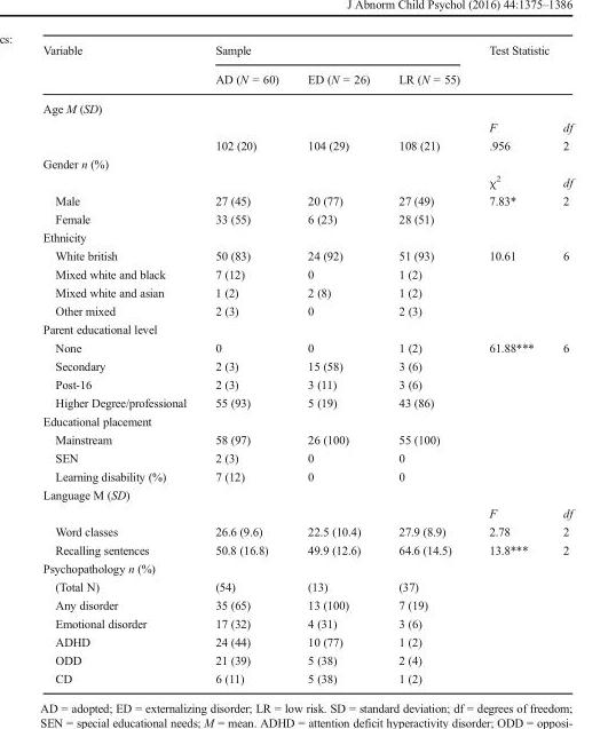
<table><thead><tr><td rowspan="2">Variable</td><td colspan="3">Sample</td><td rowspan="2" colspan="2">Test Statistic</td></tr><tr><td>AD (N = 60)</td><td>ED (N = 26)</td><td>LR (N = 55)</td></tr><tr><td colspan="6">Age M (SD)</td></tr><tr><td></td><td></td><td></td><td></td><td>F</td><td>df</td></tr></thead><tbody><tr><td></td><td>102 (20)</td><td>104 (29)</td><td>108 (21)</td><td>.956</td><td>2</td></tr><tr><td colspan="6">Gender n (%)</td></tr><tr><td></td><td></td><td></td><td></td><td>χ<sup>2</sup></td><td>df</td></tr><tr><td>Male</td><td>27 (45)</td><td>20 (77)</td><td>27 (49)</td><td>7.83*</td><td>2</td></tr><tr><td>Female</td><td>33 (55)</td><td>6 (23)</td><td>28 (51)</td><td></td><td></td></tr><tr><td colspan="6">Ethnicity</td></tr><tr><td>White british</td><td>50 (83)</td><td>24 (92)</td><td>51 (93)</td><td>10.61</td><td>6</td></tr><tr><td>Mixed white and black</td><td>7 (12)</td><td>0</td><td>1 (2)</td><td></td><td></td></tr><tr><td>Mixed white and asian</td><td>1 (2)</td><td>2 (8)</td><td>1 (2)</td><td></td><td></td></tr><tr><td>Other mixed</td><td>2 (3)</td><td>0</td><td>2 (3)</td><td></td><td></td></tr><tr><td colspan="6">Parent educational level</td></tr><tr><td>None</td><td>0</td><td>0</td><td>1 (2)</td><td>61.88***</td><td>6</td></tr><tr><td>Secondary</td><td>2 (3)</td><td>15 (58)</td><td>3 (6)</td><td></td><td></td></tr><tr><td>Post-16</td><td>2 (3)</td><td>3 (11)</td><td>3 (6)</td><td></td><td></td></tr><tr><td>Higher Degree/professional</td><td>55 (93)</td><td>5 (19)</td><td>43 (86)</td><td></td><td></td></tr><tr><td colspan="6">Educational placement</td></tr><tr><td>Mainstream</td><td>58 (97)</td><td>26 (100)</td><td>55 (100)</td><td></td><td></td></tr><tr><td>SEN</td><td>2 (3)</td><td>0</td><td>0</td><td></td><td></td></tr><tr><td>Learning disability (%)</td><td>7 (12)</td><td>0</td><td>0</td><td></td><td></td></tr><tr><td colspan="6">Language M (SD)</td></tr><tr><td></td><td></td><td></td><td></td><td>F</td><td>df</td></tr><tr><td>Word classes</td><td>26.6 (9.6)</td><td>22.5 (10.4)</td><td>27.9 (8.9)</td><td>2.78</td><td>2</td></tr><tr><td>Recalling sentences</td><td>50.8 (16.8)</td><td>49.9 (12.6)</td><td>64.6 (14.5)</td><td>13.8***</td><td>2</td></tr><tr><td colspan="6">Psychopathology n (%)</td></tr><tr><td>(Total N)</td><td>(54)</td><td>(13)</td><td>(37)</td><td></td><td></td></tr><tr><td>Any disorder</td><td>35 (65)</td><td>13 (100)</td><td>7 (19)</td><td></td><td></td></tr><tr><td>Emotional disorder</td><td>17 (32)</td><td>4 (31)</td><td>3 (6)</td><td></td><td></td></tr><tr><td>ADHD</td><td>24 (44)</td><td>10 (77)</td><td>1 (2)</td><td></td><td></td></tr><tr><td>ODD</td><td>21 (39)</td><td>5 (38)</td><td>2 (4)</td><td></td><td></td></tr><tr><td>CD</td><td>6 (11)</td><td>5 (38)</td><td>1 (2)</td><td></td><td></td></tr></tbody></table>